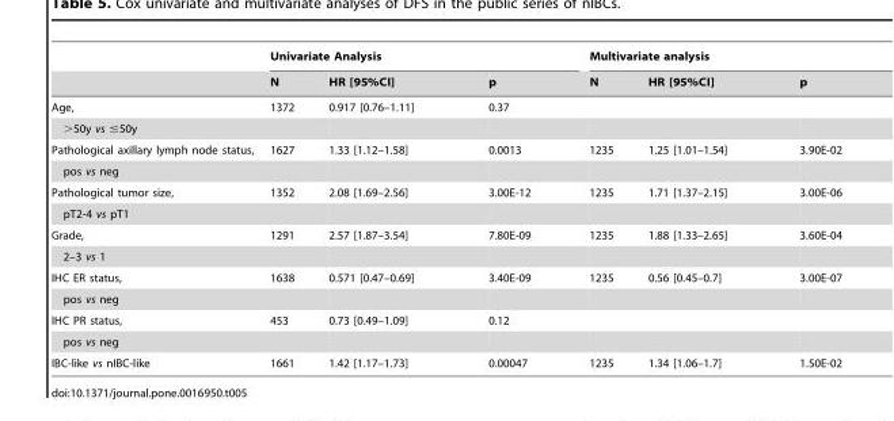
<table><thead><tr><td rowspan="2"></td><td colspan="3">Univariate Analysis</td><td colspan="3">Multivariate analysis</td></tr><tr><td>N</td><td>HR [95%CI]</td><td>p</td><td>N</td><td>HR [95%CI]</td><td>p</td></tr></thead><tbody><tr><td>Age,</td><td>1372</td><td>0.917 [0.76–1.11]</td><td>0.37</td><td></td><td></td><td></td></tr><tr><td colspan="7">&gt;50y vs ≤50y</td></tr><tr><td>Pathological axillary lymph node status,</td><td>1627</td><td>1.33 [1.12–1.58]</td><td>0.0013</td><td>1235</td><td>1.25 [1.01–1.54]</td><td>3.90E-02</td></tr><tr><td colspan="7">pos vs neg</td></tr><tr><td>Pathological tumor size,</td><td>1352</td><td>2.08 [1.69–2.56]</td><td>3.00E-12</td><td>1235</td><td>1.71 [1.37–2.15]</td><td>3.00E-06</td></tr><tr><td colspan="7">pT2-4 vs pT1</td></tr><tr><td>Grade,</td><td>1291</td><td>2.57 [1.87–3.54]</td><td>7.80E-09</td><td>1235</td><td>1.88 [1.33–2.65]</td><td>3.60E-04</td></tr><tr><td colspan="7">2–3 vs 1</td></tr><tr><td>IHC ER status,</td><td>1638</td><td>0.571 [0.47–0.69]</td><td>3.40E-09</td><td>1235</td><td>0.56 [0.45–0.7]</td><td>3.00E-07</td></tr><tr><td colspan="7">pos vs neg</td></tr><tr><td>IHC PR status,</td><td>453</td><td>0.73 [0.49–1.09]</td><td>0.12</td><td></td><td></td><td></td></tr><tr><td colspan="7">pos vs neg</td></tr><tr><td>IBC-like vs nIBC-like</td><td>1661</td><td>1.42 [1.17–1.73]</td><td>0.00047</td><td>1235</td><td>1.34 [1.06–1.7]</td><td>1.50E-02</td></tr></tbody></table>